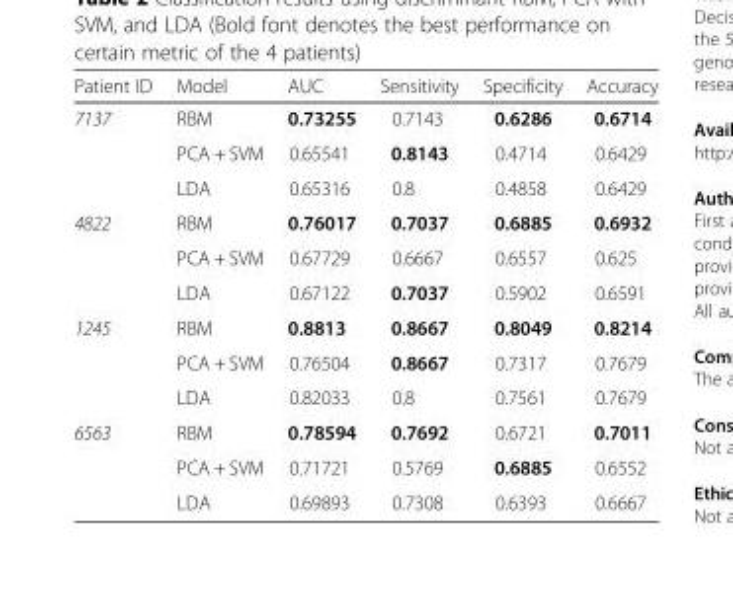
<table><thead><tr><td>Patient ID</td><td>Model</td><td>AUC</td><td>Sensitivity</td><td>Specificity</td><td>Accuracy</td></tr></thead><tbody><tr><td rowspan="3">7137</td><td>RBM</td><td>0.73255</td><td>0.7143</td><td>0.6286</td><td>0.6714</td></tr><tr><td>PCA + SVM</td><td>0.65541</td><td>0.8143</td><td>0.4714</td><td>0.6429</td></tr><tr><td>LDA</td><td>0.65316</td><td>0.8</td><td>0.4858</td><td>0.6429</td></tr><tr><td rowspan="3">4822</td><td>RBM</td><td>0.76017</td><td>0.7037</td><td>0.6885</td><td>0.6932</td></tr><tr><td>PCA + SVM</td><td>0.67729</td><td>0.6667</td><td>0.6557</td><td>0.625</td></tr><tr><td>LDA</td><td>0.67122</td><td>0.7037</td><td>0.5902</td><td>0.6591</td></tr><tr><td rowspan="3">1245</td><td>RBM</td><td>0.8813</td><td>0.8667</td><td>0.8049</td><td>0.8214</td></tr><tr><td>PCA + SVM</td><td>0.76504</td><td>0.8667</td><td>0.7317</td><td>0.7679</td></tr><tr><td>LDA</td><td>0.82033</td><td>0.8</td><td>0.7561</td><td>0.7679</td></tr><tr><td rowspan="3">6563</td><td>RBM</td><td>0.78594</td><td>0.7692</td><td>0.6721</td><td>0.7011</td></tr><tr><td>PCA + SVM</td><td>0.71721</td><td>0.5769</td><td>0.6885</td><td>0.6552</td></tr><tr><td>LDA</td><td>0.69893</td><td>0.7308</td><td>0.6393</td><td>0.6667</td></tr></tbody></table>